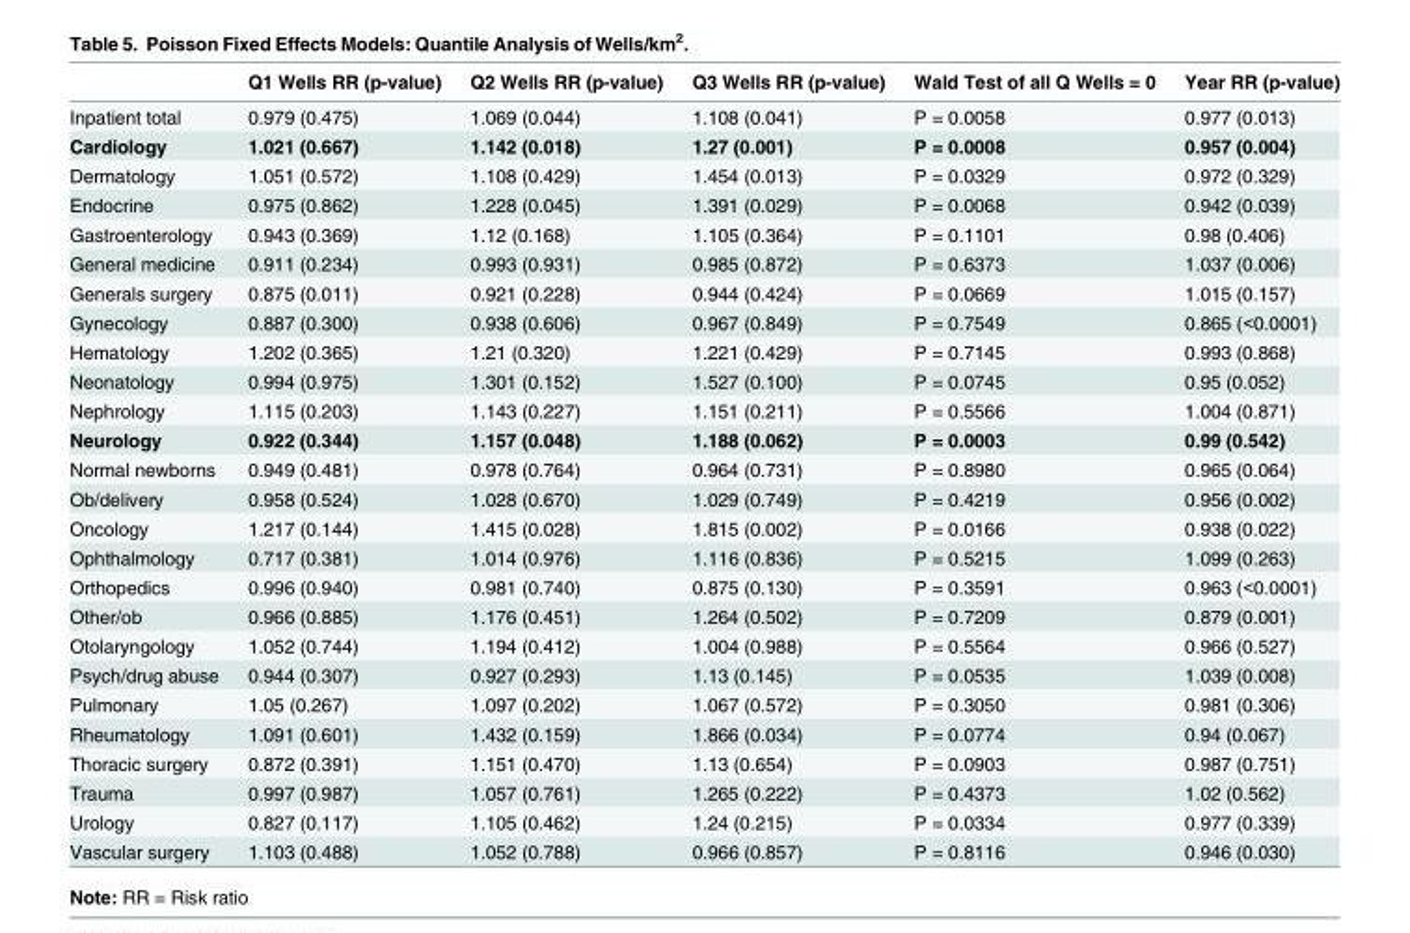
<table><thead><tr><td></td><td>Q1 Wells RR (p-value)</td><td>Q2 Wells RR (p-value)</td><td>Q3 Wells RR (p-value)</td><td>Wald Test of all Q Wells = 0</td><td>Year RR (p-value)</td></tr></thead><tbody><tr><td>Inpatient total</td><td>0.979 (0.475)</td><td>1.069 (0.044)</td><td>1.108 (0.041)</td><td>P = 0.0058</td><td>0.977 (0.013)</td></tr><tr><td>Cardiology</td><td>1.021 (0.667)</td><td>1.142 (0.018)</td><td>1.27 (0.001)</td><td>P = 0.0008</td><td>0.957 (0.004)</td></tr><tr><td>Dermatology</td><td>1.051 (0.572)</td><td>1.108 (0.429)</td><td>1.454 (0.013)</td><td>P = 0.0329</td><td>0.972 (0.329)</td></tr><tr><td>Endocrine</td><td>0.975 (0.862)</td><td>1.228 (0.045)</td><td>1.391 (0.029)</td><td>P = 0.0068</td><td>0.942 (0.039)</td></tr><tr><td>Gastroenterology</td><td>0.943 (0.369)</td><td>1.12 (0.168)</td><td>1.105 (0.364)</td><td>P = 0.1101</td><td>0.98 (0.406)</td></tr><tr><td>General medicine</td><td>0.911 (0.234)</td><td>0.993 (0.931)</td><td>0.985 (0.872)</td><td>P = 0.6373</td><td>1.037 (0.006)</td></tr><tr><td>Generals surgery</td><td>0.875 (0.011)</td><td>0.921 (0.228)</td><td>0.944 (0.424)</td><td>P = 0.0669</td><td>1.015 (0.157)</td></tr><tr><td>Gynecology</td><td>0.887 (0.300)</td><td>0.938 (0.606)</td><td>0.967 (0.849)</td><td>P = 0.7549</td><td>0.865 (&lt;0.0001)</td></tr><tr><td>Hematology</td><td>1.202 (0.365)</td><td>1.21 (0.320)</td><td>1.221 (0.429)</td><td>P = 0.7145</td><td>0.993 (0.868)</td></tr><tr><td>Neonatology</td><td>0.994 (0.975)</td><td>1.301 (0.152)</td><td>1.527 (0.100)</td><td>P = 0.0745</td><td>0.95 (0.052)</td></tr><tr><td>Nephrology</td><td>1.115 (0.203)</td><td>1.143 (0.227)</td><td>1.151 (0.211)</td><td>P = 0.5566</td><td>1.004 (0.871)</td></tr><tr><td>Neurology</td><td>0.922 (0.344)</td><td>1.157 (0.048)</td><td>1.188 (0.062)</td><td>P = 0.0003</td><td>0.99 (0.542)</td></tr><tr><td>Normal newborns</td><td>0.949 (0.481)</td><td>0.978 (0.764)</td><td>0.964 (0.731)</td><td>P = 0.8980</td><td>0.965 (0.064)</td></tr><tr><td>Ob/delivery</td><td>0.958 (0.524)</td><td>1.028 (0.670)</td><td>1.029 (0.749)</td><td>P = 0.4219</td><td>0.956 (0.002)</td></tr><tr><td>Oncology</td><td>1.217 (0.144)</td><td>1.415 (0.028)</td><td>1.815 (0.002)</td><td>P = 0.0166</td><td>0.938 (0.022)</td></tr><tr><td>Ophthalmology</td><td>0.717 (0.381)</td><td>1.014 (0.976)</td><td>1.116 (0.836)</td><td>P = 0.5215</td><td>1.099 (0.263)</td></tr><tr><td>Orthopedics</td><td>0.996 (0.940)</td><td>0.981 (0.740)</td><td>0.875 (0.130)</td><td>P = 0.3591</td><td>0.963 (&lt;0.0001)</td></tr><tr><td>Other/ob</td><td>0.966 (0.885)</td><td>1.176 (0.451)</td><td>1.264 (0.502)</td><td>P = 0.7209</td><td>0.879 (0.001)</td></tr><tr><td>Otolaryngology</td><td>1.052 (0.744)</td><td>1.194 (0.412)</td><td>1.004 (0.988)</td><td>P = 0.5564</td><td>0.966 (0.527)</td></tr><tr><td>Psych/drug abuse</td><td>0.944 (0.307)</td><td>0.927 (0.293)</td><td>1.13 (0.145)</td><td>P = 0.0535</td><td>1.039 (0.008)</td></tr><tr><td>Pulmonary</td><td>1.05 (0.267)</td><td>1.097 (0.202)</td><td>1.067 (0.572)</td><td>P = 0.3050</td><td>0.981 (0.306)</td></tr><tr><td>Rheumatology</td><td>1.091 (0.601)</td><td>1.432 (0.159)</td><td>1.866 (0.034)</td><td>P = 0.0774</td><td>0.94 (0.067)</td></tr><tr><td>Thoracic surgery</td><td>0.872 (0.391)</td><td>1.151 (0.470)</td><td>1.13 (0.654)</td><td>P = 0.0903</td><td>0.987 (0.751)</td></tr><tr><td>Trauma</td><td>0.997 (0.987)</td><td>1.057 (0.761)</td><td>1.265 (0.222)</td><td>P = 0.4373</td><td>1.02 (0.562)</td></tr><tr><td>Urology</td><td>0.827 (0.117)</td><td>1.105 (0.462)</td><td>1.24 (0.215)</td><td>P = 0.0334</td><td>0.977 (0.339)</td></tr><tr><td>Vascular surgery</td><td>1.103 (0.488)</td><td>1.052 (0.788)</td><td>0.966 (0.857)</td><td>P = 0.8116</td><td>0.946 (0.030)</td></tr></tbody></table>